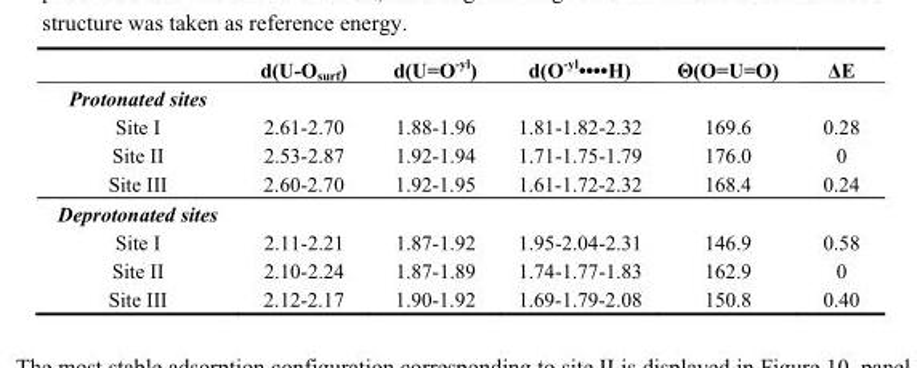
<table><thead><tr><td></td><td>d(U-O<sub>surf</sub>)</td><td>d(U=O<sup>-yl</sup>)</td><td>d(O<sup>-yl</sup>••••H)</td><td>Θ(O=U=O)</td><td>ΔE</td></tr></thead><tbody><tr><td colspan="6">Protonated sites</td></tr><tr><td>Site I</td><td>2.61-2.70</td><td>1.88-1.96</td><td>1.81-1.82-2.32</td><td>169.6</td><td>0.28</td></tr><tr><td>Site II</td><td>2.53-2.87</td><td>1.92-1.94</td><td>1.71-1.75-1.79</td><td>176.0</td><td>0</td></tr><tr><td>Site III</td><td>2.60-2.70</td><td>1.92-1.95</td><td>1.61-1.72-2.32</td><td>168.4</td><td>0.24</td></tr><tr><td colspan="6">Deprotonated sites</td></tr><tr><td>Site I</td><td>2.11-2.21</td><td>1.87-1.92</td><td>1.95-2.04-2.31</td><td>146.9</td><td>0.58</td></tr><tr><td>Site II</td><td>2.10-2.24</td><td>1.87-1.89</td><td>1.74-1.77-1.83</td><td>162.9</td><td>0</td></tr><tr><td>Site III</td><td>2.12-2.17</td><td>1.90-1.92</td><td>1.69-1.79-2.08</td><td>150.8</td><td>0.40</td></tr></tbody></table>